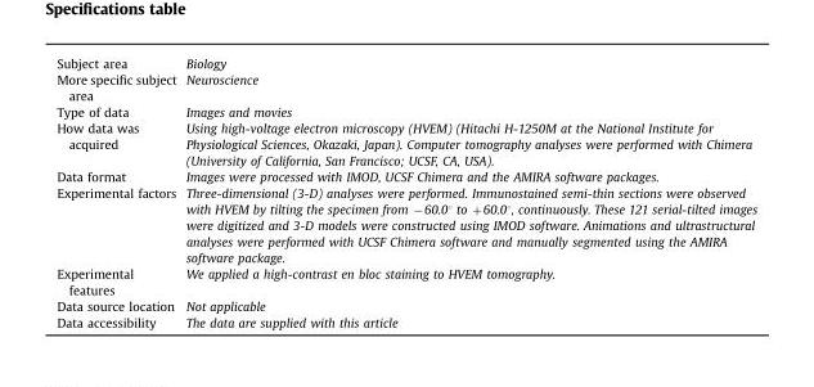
<table><tbody><tr><td>Subject area</td><td>Biology</td></tr><tr><td>More specific subject area</td><td>Neuroscience</td></tr><tr><td>Type of data</td><td>Images and movies</td></tr><tr><td>How data was acquired</td><td>Using high-voltage electron microscopy (HVEM) (Hitachi H-1250M at the National Institute for Physiological Sciences, Okazaki, Japan). Computer tomography analyses were performed with Chimera (University of California, San Francisco; UCSF, CA, USA).</td></tr><tr><td>Data format</td><td>Images were processed with IMOD, UCSF Chimera and the AMIRA software packages.</td></tr><tr><td>Experimental factors</td><td>Three-dimensional (3-D) analyses were performed. Immunostained semi-thin sections were observed with HVEM by tilting the specimen from −60.0° to +60.0°, continuously. These 121 serial-tilted images were digitized and 3-D models were constructed using IMOD software. Animations and ultrastructural analyses were performed with UCSF Chimera software and manually segmented using the AMIRA software package.</td></tr><tr><td>Experimental features</td><td>We applied a high-contrast en bloc staining to HVEM tomography.</td></tr><tr><td>Data source location</td><td>Not applicable</td></tr><tr><td>Data accessibility</td><td>The data are supplied with this article</td></tr></tbody></table>